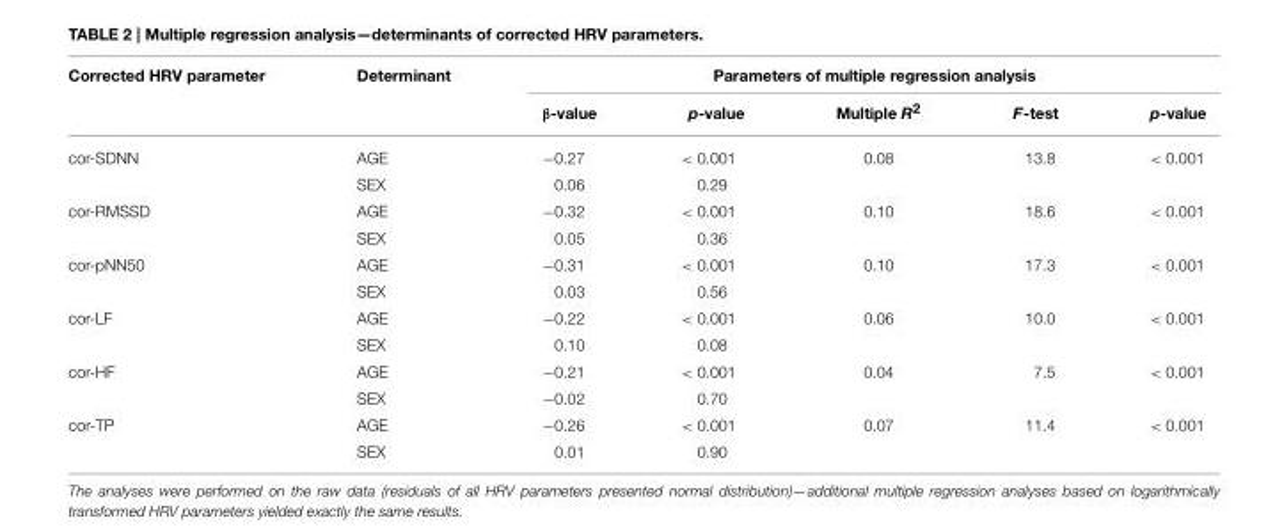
<table><thead><tr><td rowspan="2">Corrected HRV parameter</td><td rowspan="2">Determinant</td><td colspan="5">Parameters of multiple regression analysis</td></tr><tr><td>β-value</td><td>p-value</td><td>Multiple R<sup>2</sup></td><td>F-test</td><td>p-value</td></tr></thead><tbody><tr><td rowspan="2">cor-SDNN</td><td>AGE</td><td>−0.27</td><td>&lt; 0.001</td><td>0.08</td><td>13.8</td><td>&lt; 0.001</td></tr><tr><td>SEX</td><td>0.06</td><td>0.29</td><td></td><td></td><td></td></tr><tr><td rowspan="2">cor-RMSSD</td><td>AGE</td><td>−0.32</td><td>&lt; 0.001</td><td>0.10</td><td>18.6</td><td>&lt; 0.001</td></tr><tr><td>SEX</td><td>0.05</td><td>0.36</td><td></td><td></td><td></td></tr><tr><td rowspan="2">cor-pNN50</td><td>AGE</td><td>−0.31</td><td>&lt; 0.001</td><td>0.10</td><td>17.3</td><td>&lt; 0.001</td></tr><tr><td>SEX</td><td>0.03</td><td>0.56</td><td></td><td></td><td></td></tr><tr><td rowspan="2">cor-LF</td><td>AGE</td><td>−0.22</td><td>&lt; 0.001</td><td>0.06</td><td>10.0</td><td>&lt; 0.001</td></tr><tr><td>SEX</td><td>0.10</td><td>0.08</td><td></td><td></td><td></td></tr><tr><td rowspan="2">cor-HF</td><td>AGE</td><td>−0.21</td><td>&lt; 0.001</td><td>0.04</td><td>7.5</td><td>&lt; 0.001</td></tr><tr><td>SEX</td><td>−0.02</td><td>0.70</td><td></td><td></td><td></td></tr><tr><td rowspan="2">cor-TP</td><td>AGE</td><td>−0.26</td><td>&lt; 0.001</td><td>0.07</td><td>11.4</td><td>&lt; 0.001</td></tr><tr><td>SEX</td><td>0.01</td><td>0.90</td><td></td><td></td><td></td></tr></tbody></table>